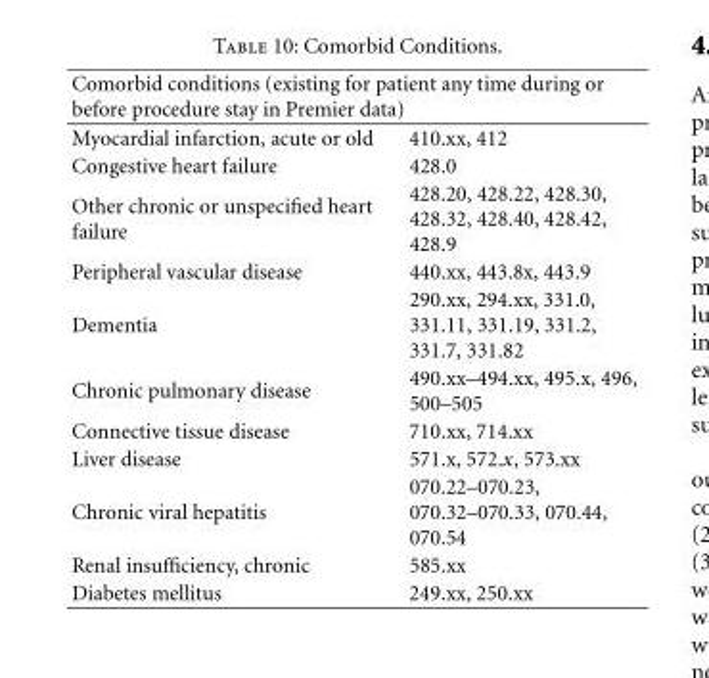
<table><thead><tr><td colspan="2">Comorbid conditions (existing for patient any time during or before procedure stay in Premier data)</td></tr><tr><td>Myocardial infarction, acute or old</td><td>410.xx, 412</td></tr></thead><tbody><tr><td>Congestive heart failure</td><td>428.0</td></tr><tr><td>Other chronic or unspecified heart failure</td><td>428.20, 428.22, 428.30, 428.32, 428.40, 428.42, 428.9</td></tr><tr><td>Peripheral vascular disease</td><td>440.xx, 443.8x, 443.9</td></tr><tr><td>Dementia</td><td>290.xx, 294.xx, 331.0, 331.11, 331.19, 331.2, 331.7, 331.82</td></tr><tr><td>Chronic pulmonary disease</td><td>490.xx–494.xx, 495.x, 496, 500–505</td></tr><tr><td>Connective tissue disease</td><td>710.xx, 714.xx</td></tr><tr><td>Liver disease</td><td>571.x, 572.x, 573.xx</td></tr><tr><td>Chronic viral hepatitis</td><td>070.22–070.23, 070.32–070.33, 070.44, 070.54</td></tr><tr><td>Renal insufficiency, chronic</td><td>585.xx</td></tr><tr><td>Diabetes mellitus</td><td>249.xx, 250.xx</td></tr></tbody></table>